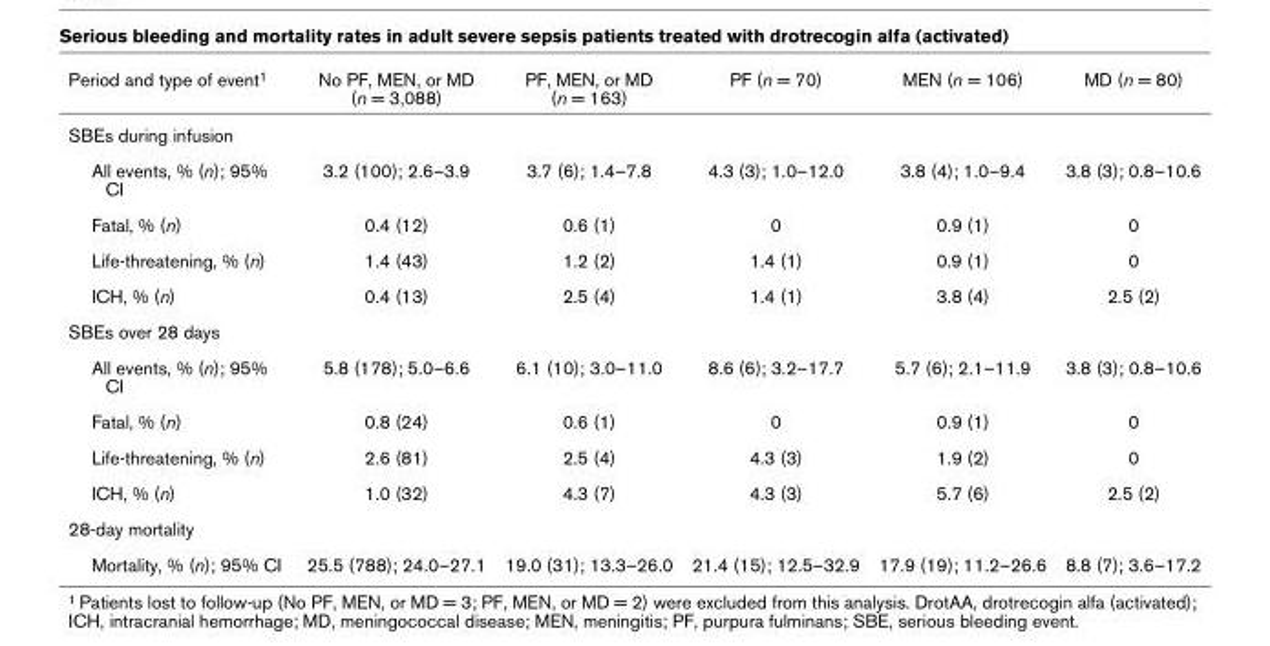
<table><thead><tr><td>Period and type of event1</td><td>No PF, MEN, or MD (n = 3,088)</td><td>PF, MEN, or MD (n = 163)</td><td>PF (n = 70)</td><td>MEN (n = 106)</td><td>MD (n = 80)</td></tr></thead><tbody><tr><td colspan="6">SBEs during infusion</td></tr><tr><td>All events, % (n); 95% CI</td><td>3.2 (100); 2.6–3.9</td><td>3.7 (6); 1.4–7.8</td><td>4.3 (3); 1.0–12.0</td><td>3.8 (4); 1.0–9.4</td><td>3.8 (3); 0.8–10.6</td></tr><tr><td>Fatal, % (n)</td><td>0.4 (12)</td><td>0.6 (1)</td><td>0</td><td>0.9 (1)</td><td>0</td></tr><tr><td>Life-threatening, % (n)</td><td>1.4 (43)</td><td>1.2 (2)</td><td>1.4 (1)</td><td>0.9 (1)</td><td>0</td></tr><tr><td>ICH, % (n)</td><td>0.4 (13)</td><td>2.5 (4)</td><td>1.4 (1)</td><td>3.8 (4)</td><td>2.5 (2)</td></tr><tr><td colspan="6">SBEs over 28 days</td></tr><tr><td>All events, % (n); 95% CI</td><td>5.8 (178); 5.0–6.6</td><td>6.1 (10); 3.0–11.0</td><td>8.6 (6); 3.2–17.7</td><td>5.7 (6); 2.1–11.9</td><td>3.8 (3); 0.8–10.6</td></tr><tr><td>Fatal, % (n)</td><td>0.8 (24)</td><td>0.6 (1)</td><td>0</td><td>0.9 (1)</td><td>0</td></tr><tr><td>Life-threatening, % (n)</td><td>2.6 (81)</td><td>2.5 (4)</td><td>4.3 (3)</td><td>1.9 (2)</td><td>0</td></tr><tr><td>ICH, % (n)</td><td>1.0 (32)</td><td>4.3 (7)</td><td>4.3 (3)</td><td>5.7 (6)</td><td>2.5 (2)</td></tr><tr><td colspan="6">28-day mortality</td></tr><tr><td>Mortality, % (n); 95% CI</td><td>25.5 (788); 24.0–27.1</td><td>19.0 (31); 13.3–26.0</td><td>21.4 (15); 12.5–32.9</td><td>17.9 (19); 11.2–26.6</td><td>8.8 (7); 3.6–17.2</td></tr></tbody></table>